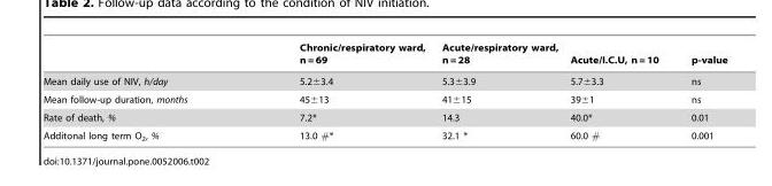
<table><thead><tr><td></td><td>Chronic/respiratory ward, n = 69</td><td>Acute/respiratory ward, n = 28</td><td>Acute/I.C.U, n = 10</td><td>p-value</td></tr></thead><tbody><tr><td>Mean daily use of NIV, h/day</td><td>5.2±3.4</td><td>5.3±3.9</td><td>5.7±3.3</td><td>ns</td></tr><tr><td>Mean follow-up duration, months</td><td>45±13</td><td>41±15</td><td>39±1</td><td>ns</td></tr><tr><td>Rate of death, %</td><td>7.2*</td><td>14.3</td><td>40.0*</td><td>0.01</td></tr><tr><td>Additonal long term O<sub>2</sub>, %</td><td>13.0 #*</td><td>32.1 *</td><td>60.0 #</td><td>0.001</td></tr></tbody></table>